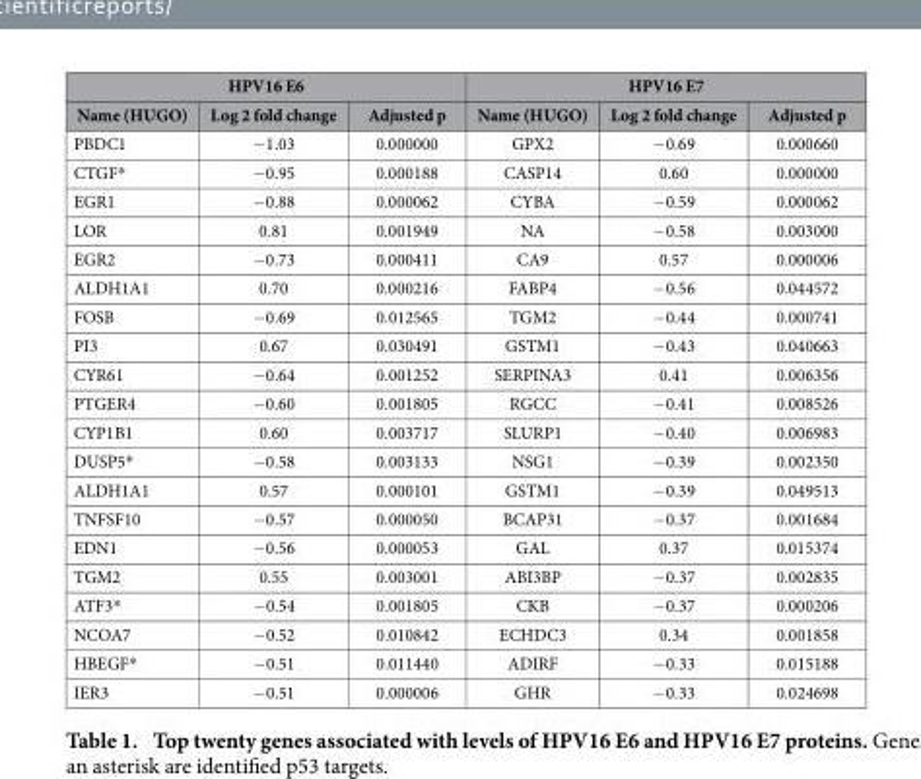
<table><thead><tr><td colspan="3">HPV16 E6</td><td colspan="3">HPV16 E7</td></tr><tr><td>Name (HUGO)</td><td>Log 2 fold change</td><td>Adjusted p</td><td>Name (HUGO)</td><td>Log 2 fold change</td><td>Adjusted p</td></tr></thead><tbody><tr><td>PBDC1</td><td>− 1.03</td><td>0.000000</td><td>GPX2</td><td>− 0.69</td><td>0.000660</td></tr><tr><td>CTGF*</td><td>− 0.95</td><td>0.000188</td><td>CASP14</td><td>0.60</td><td>0.000000</td></tr><tr><td>EGR1</td><td>− 0.88</td><td>0.000062</td><td>CYBA</td><td>− 0.59</td><td>0.000062</td></tr><tr><td>LOR</td><td>0.81</td><td>0.001949</td><td>NA</td><td>− 0.58</td><td>0.003000</td></tr><tr><td>EGR2</td><td>− 0.73</td><td>0.000411</td><td>CA9</td><td>0.57</td><td>0.000006</td></tr><tr><td>ALDH1A1</td><td>0.70</td><td>0.000216</td><td>FABP4</td><td>− 0.56</td><td>0.044572</td></tr><tr><td>FOSB</td><td>− 0.69</td><td>0.012565</td><td>TGM2</td><td>− 0.44</td><td>0.000741</td></tr><tr><td>PI3</td><td>0.67</td><td>0.030491</td><td>GSTM1</td><td>− 0.43</td><td>0.040663</td></tr><tr><td>CYR61</td><td>− 0.64</td><td>0.001252</td><td>SERPINA3</td><td>0.41</td><td>0.006356</td></tr><tr><td>PTGER4</td><td>− 0.60</td><td>0.001805</td><td>RGCC</td><td>− 0.41</td><td>0.008526</td></tr><tr><td>CYP1B1</td><td>0.60</td><td>0.003717</td><td>SLURP1</td><td>− 0.40</td><td>0.006983</td></tr><tr><td>DUSP5*</td><td>− 0.58</td><td>0.003133</td><td>NSG1</td><td>− 0.39</td><td>0.002350</td></tr><tr><td>ALDH1A1</td><td>0.57</td><td>0.000101</td><td>GSTM1</td><td>− 0.39</td><td>0.049513</td></tr><tr><td>TNFSF10</td><td>− 0.57</td><td>0.000050</td><td>BCAP31</td><td>− 0.37</td><td>0.001684</td></tr><tr><td>EDN1</td><td>− 0.56</td><td>0.000053</td><td>GAL</td><td>0.37</td><td>0.015374</td></tr><tr><td>TGM2</td><td>0.55</td><td>0.003001</td><td>ABI3BP</td><td>− 0.37</td><td>0.002835</td></tr><tr><td>ATF3*</td><td>− 0.54</td><td>0.001805</td><td>CKB</td><td>− 0.37</td><td>0.000206</td></tr><tr><td>NCOA7</td><td>− 0.52</td><td>0.010842</td><td>ECHDC3</td><td>0.34</td><td>0.001858</td></tr><tr><td>HBEGF*</td><td>− 0.51</td><td>0.011440</td><td>ADIRF</td><td>− 0.33</td><td>0.015188</td></tr><tr><td>IER3</td><td>− 0.51</td><td>0.000006</td><td>GHR</td><td>− 0.33</td><td>0.024698</td></tr></tbody></table>